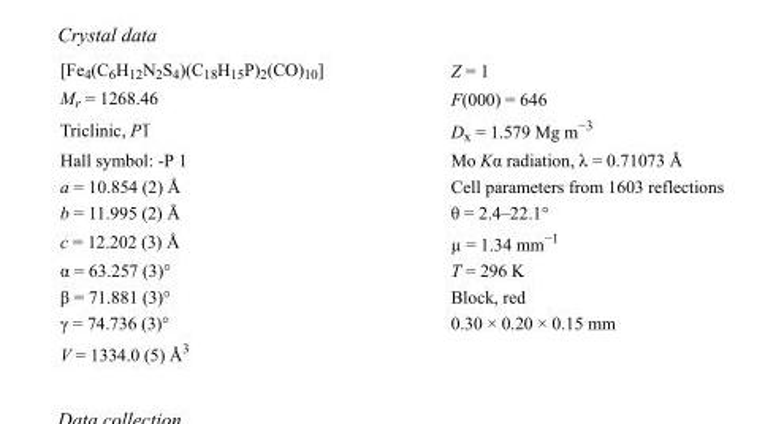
<table><tbody><tr><td>[Fe<sub>4</sub>(C<sub>6</sub>H<sub>12</sub>N<sub>2</sub>S<sub>4</sub>)(C<sub>18</sub>H<sub>15</sub>P)<sub>2</sub>(CO)<sub>10</sub>]</td><td>Z = 1</td></tr><tr><td>M<sub>r</sub> = 1268.46</td><td>F(000) = 646</td></tr><tr><td>Triclinic, P1</td><td>D<sub>x</sub> = 1.579 Mg m<sup>−3</sup></td></tr><tr><td>Hall symbol: -P 1</td><td>Mo Kα radiation, λ = 0.71073 Å</td></tr><tr><td>a = 10.854 (2) Å</td><td>Cell parameters from 1603 reflections</td></tr><tr><td>b = 11.995 (2) Å</td><td>θ = 2.4–22.1°</td></tr><tr><td>c = 12.202 (3) Å</td><td>µ = 1.34 mm<sup>−1</sup></td></tr><tr><td>α = 63.257 (3)°</td><td>T = 296 K</td></tr><tr><td>β = 71.881 (3)°</td><td>Block, red</td></tr><tr><td>γ = 74.736 (3)°</td><td>0.30 × 0.20 × 0.15 mm</td></tr><tr><td>V = 1334.0 (5) Å<sup>3</sup></td><td></td></tr></tbody></table>